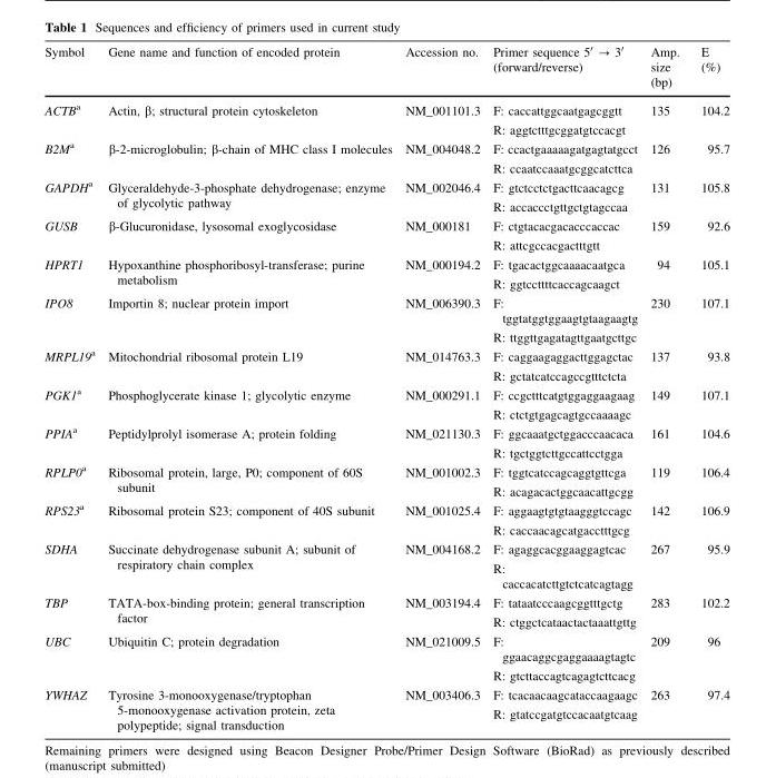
<table><thead><tr><td>Symbol</td><td>Gene name and function of encoded protein</td><td>Accession no.</td><td>Primer sequence 5′ → 3′ (forward/reverse)</td><td>Amp. size (bp)</td><td>E (%)</td></tr></thead><tbody><tr><td>ACTB<sup>a</sup></td><td>Actin, β; structural protein cytoskeleton</td><td>NM_001101.3</td><td>F: caccattggcaatgagcggtt R: aggtctttgcggatgtccacgt</td><td>135</td><td>104.2</td></tr><tr><td>B2M<sup>a</sup></td><td>β-2-microglobulin; β-chain of MHC class I molecules</td><td>NM_004048.2</td><td>F: ccactgaaaaagatgagtatgcct R: ccaatccaaatgcggcatcttca</td><td>126</td><td>95.7</td></tr><tr><td>GAPDH<sup>a</sup></td><td>Glyceraldehyde-3-phosphate dehydrogenase; enzyme of glycolytic pathway</td><td>NM_002046.4</td><td>F: gtctcctctgacttcaacagcg R: accaccctgttgctgtagccaa</td><td>131</td><td>105.8</td></tr><tr><td>GUSB</td><td>β-Glucuronidase, lysosomal exoglycosidase</td><td>NM_000181</td><td>F: ctgtacacgacacccaccac R: attcgccacgactttgtt</td><td>159</td><td>92.6</td></tr><tr><td>HPRT1</td><td>Hypoxanthine phosphoribosyl-transferase; purine metabolism</td><td>NM_000194.2</td><td>F: tgacactggcaaaacaatgca R: ggtccttttcaccagcaagct</td><td>94</td><td>105.1</td></tr><tr><td>IPO8</td><td>Importin 8; nuclear protein import</td><td>NM_006390.3</td><td>F: tggtatggtggaagtgtaagaagtg R: ttggttgagatagttgaatgcttgc</td><td>230</td><td>107.1</td></tr><tr><td>MRPL19<sup>a</sup></td><td>Mitochondrial ribosomal protein L19</td><td>NM_014763.3</td><td>F: caggaagaggacttggagctac R: gctatcatccagccgtttctcta</td><td>137</td><td>93.8</td></tr><tr><td>PGK1<sup>a</sup></td><td>Phosphoglycerate kinase 1; glycolytic enzyme</td><td>NM_000291.1</td><td>F: ccgctttcatgtggaggaagaag R: ctctgtgagcagtgccaaaagc</td><td>149</td><td>107.1</td></tr><tr><td>PPIA<sup>a</sup></td><td>Peptidylprolyl isomerase A; protein folding</td><td>NM_021130.3</td><td>F: ggcaaatgctggacccaacaca R: tgctggtcttgccattcctgga</td><td>161</td><td>104.6</td></tr><tr><td>RPLP0<sup>a</sup></td><td>Ribosomal protein, large, P0; component of 60S subunit</td><td>NM_001002.3</td><td>F: tggtcatccagcaggtgttcga R: acagacactggcaacattgcgg</td><td>119</td><td>106.4</td></tr><tr><td>RPS23<sup>a</sup></td><td>Ribosomal protein S23; component of 40S subunit</td><td>NM_001025.4</td><td>F: aggaagtgtgtaagggtccagc R: caccaacagcatgacctttgcg</td><td>142</td><td>106.9</td></tr><tr><td>SDHA</td><td>Succinate dehydrogenase subunit A; subunit of respiratory chain complex</td><td>NM_004168.2</td><td>F: agaggcacggaaggagtcac R: caccacatcttgtctcatcagtagg</td><td>267</td><td>95.9</td></tr><tr><td>TBP</td><td>TATA-box-binding protein; general transcription factor</td><td>NM_003194.4</td><td>F: tataatcccaagcggtttgctg R: ctggctcataactactaaattgttg</td><td>283</td><td>102.2</td></tr><tr><td>UBC</td><td>Ubiquitin C; protein degradation</td><td>NM_021009.5</td><td>F: ggaacaggcgaggaaaagtagtc R: gtcttaccagtcagagtcttcacg</td><td>209</td><td>96</td></tr><tr><td>YWHAZ</td><td>Tyrosine 3-monooxygenase/tryptophan 5-monooxygenase activation protein, zeta polypeptide; signal transduction</td><td>NM_003406.3</td><td>F: tcacaacaagcataccaagaagc R: gtatccgatgtccacaatgtcaag</td><td>263</td><td>97.4</td></tr></tbody></table>